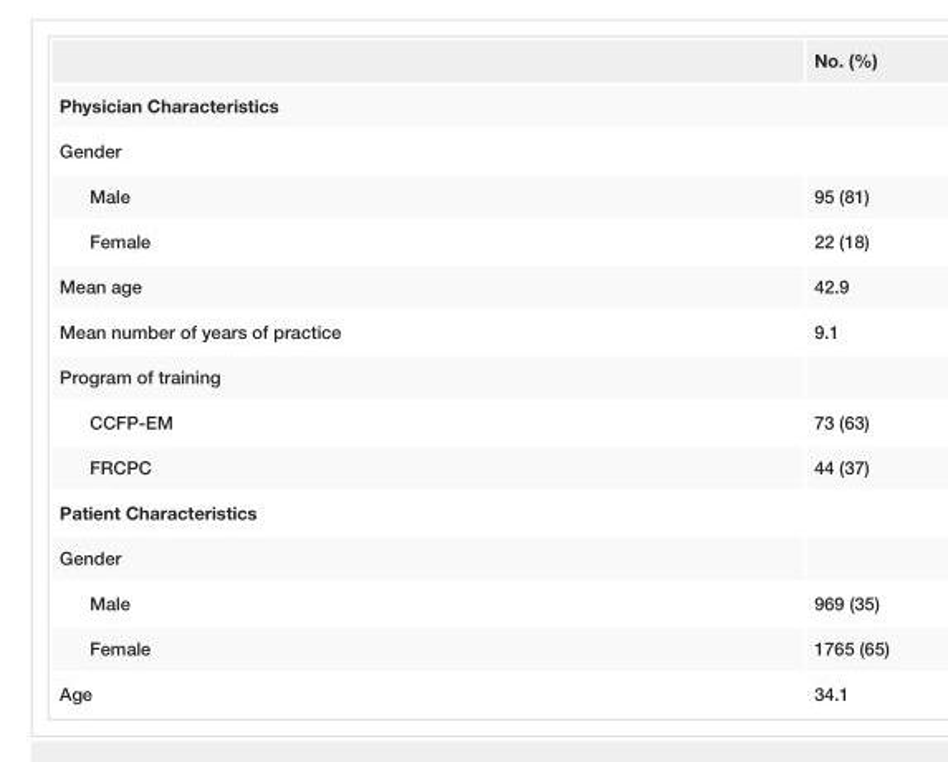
<table><thead><tr><td></td><td>No. (%)</td></tr></thead><tbody><tr><td colspan="2">Physician Characteristics</td></tr><tr><td colspan="2">Gender</td></tr><tr><td>Male</td><td>95 (81)</td></tr><tr><td>Female</td><td>22 (18)</td></tr><tr><td>Mean age</td><td>42.9</td></tr><tr><td>Mean number of years of practice</td><td>9.1</td></tr><tr><td colspan="2">Program of training</td></tr><tr><td>CCFP-EM</td><td>73 (63)</td></tr><tr><td>FRCPC</td><td>44 (37)</td></tr><tr><td colspan="2">Patient Characteristics</td></tr><tr><td colspan="2">Gender</td></tr><tr><td>Male</td><td>969 (35)</td></tr><tr><td>Female</td><td>1765 (65)</td></tr><tr><td>Age</td><td>34.1</td></tr></tbody></table>